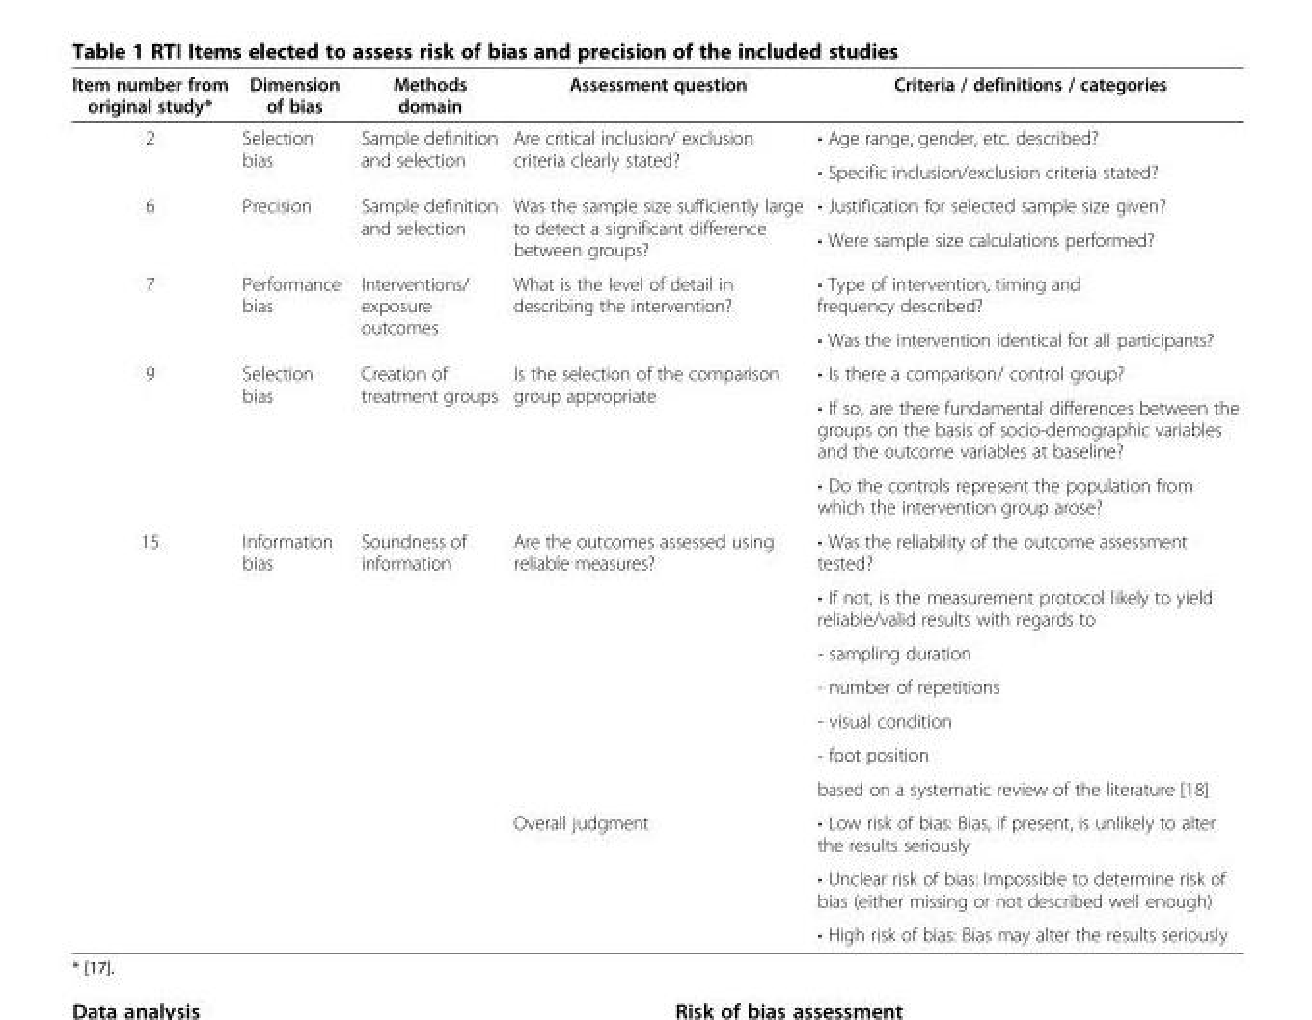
<table><thead><tr><td>Item number from original study*</td><td>Dimension of bias</td><td>Methods domain</td><td>Assessment question</td><td>Criteria / definitions / categories</td></tr></thead><tbody><tr><td rowspan="2">2</td><td rowspan="2">Selection bias</td><td rowspan="2">Sample definition and selection</td><td rowspan="2">Are critical inclusion/ exclusion criteria clearly stated?</td><td>• Age range, gender, etc. described?</td></tr><tr><td>• Specific inclusion/exclusion criteria stated?</td></tr><tr><td rowspan="2">6</td><td rowspan="2">Precision</td><td rowspan="2">Sample definition and selection</td><td rowspan="2">Was the sample size sufficiently large to detect a significant difference between groups?</td><td>• Justification for selected sample size given?</td></tr><tr><td>• Were sample size calculations performed?</td></tr><tr><td rowspan="2">7</td><td rowspan="2">Performance bias</td><td rowspan="2">Interventions/ exposure outcomes</td><td rowspan="2">What is the level of detail in describing the intervention?</td><td>• Type of intervention, timing and frequency described?</td></tr><tr><td>• Was the intervention identical for all participants?</td></tr><tr><td rowspan="3">9</td><td rowspan="3">Selection bias</td><td rowspan="3">Creation of treatment groups</td><td rowspan="3">Is the selection of the comparison group appropriate</td><td>• Is there a comparison/ control group?</td></tr><tr><td>• If so, are there fundamental differences between the groups on the basis of socio-demographic variables and the outcome variables at baseline?</td></tr><tr><td>• Do the controls represent the population from which the intervention group arose?</td></tr><tr><td rowspan="10">15</td><td rowspan="7">Information bias</td><td rowspan="7">Soundness of information</td><td rowspan="7">Are the outcomes assessed using reliable measures?</td><td>• Was the reliability of the outcome assessment tested?</td></tr><tr><td>• If not, is the measurement protocol likely to yield reliable/valid results with regards to</td></tr><tr><td>- sampling duration</td></tr><tr><td>- number of repetitions</td></tr><tr><td>- visual condition</td></tr><tr><td>- foot position</td></tr><tr><td>based on a systematic review of the literature [18]</td></tr><tr><td></td><td></td><td>Overall judgment</td><td>• Low risk of bias: Bias, if present, is unlikely to alter the results seriously</td></tr><tr><td></td><td></td><td></td><td>• Unclear risk of bias: Impossible to determine risk of bias (either missing or not described well enough)</td></tr><tr><td></td><td></td><td></td><td>• High risk of bias: Bias may alter the results seriously</td></tr></tbody></table>